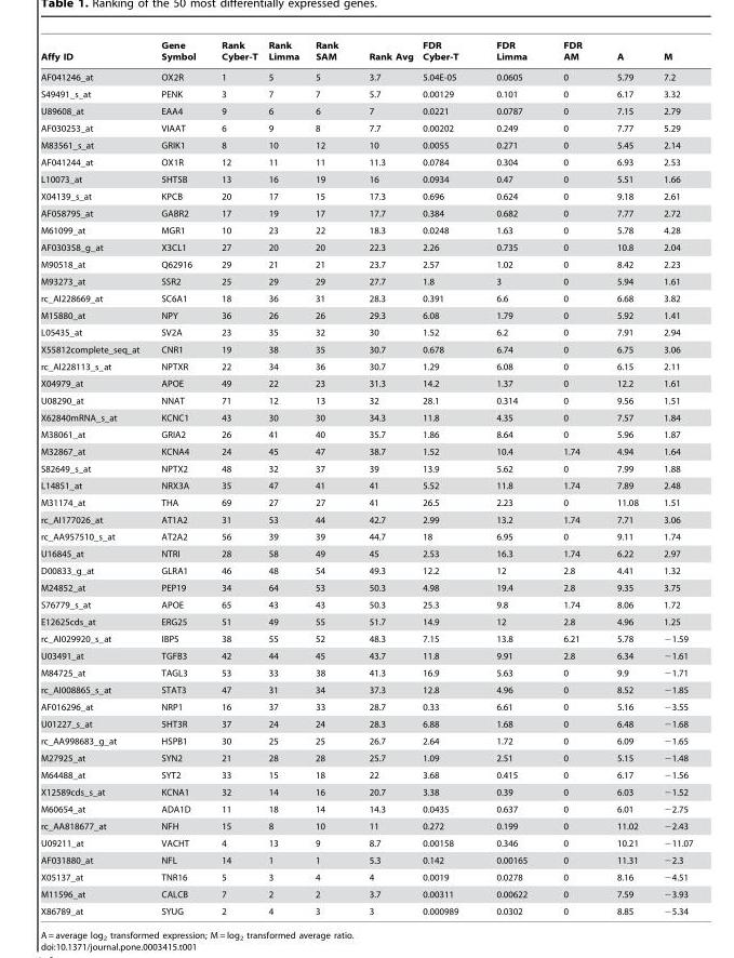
<table><thead><tr><td>Affy ID</td><td>Gene Symbol</td><td>Rank Cyber-T</td><td>Rank Limma</td><td>Rank SAM</td><td>Rank Avg</td><td>FDR Cyber-T</td><td>FDR Limma</td><td>FDR AM</td><td>A</td><td>M</td></tr></thead><tbody><tr><td>AF041246_at</td><td>OX2R</td><td>1</td><td>5</td><td>5</td><td>3.7</td><td>5.04E-05</td><td>0.0605</td><td>0</td><td>5.79</td><td>7.2</td></tr><tr><td>S49491_s_at</td><td>PENK</td><td>3</td><td>7</td><td>7</td><td>5.7</td><td>0.00129</td><td>0.101</td><td>0</td><td>6.17</td><td>3.32</td></tr><tr><td>U89608_at</td><td>EAA4</td><td>9</td><td>6</td><td>6</td><td>7</td><td>0.0221</td><td>0.0787</td><td>0</td><td>7.15</td><td>2.79</td></tr><tr><td>AF030253_at</td><td>VIAAT</td><td>6</td><td>9</td><td>8</td><td>7.7</td><td>0.00202</td><td>0.249</td><td>0</td><td>7.77</td><td>5.29</td></tr><tr><td>M83561_s_at</td><td>GRIK1</td><td>8</td><td>10</td><td>12</td><td>10</td><td>0.0055</td><td>0.271</td><td>0</td><td>5.45</td><td>2.14</td></tr><tr><td>AF041244_at</td><td>OX1R</td><td>12</td><td>11</td><td>11</td><td>11.3</td><td>0.0784</td><td>0.304</td><td>0</td><td>6.93</td><td>2.53</td></tr><tr><td>L10073_at</td><td>5HT5B</td><td>13</td><td>16</td><td>19</td><td>16</td><td>0.0934</td><td>0.47</td><td>0</td><td>5.51</td><td>1.66</td></tr><tr><td>X04139_s_at</td><td>KPCB</td><td>20</td><td>17</td><td>15</td><td>17.3</td><td>0.696</td><td>0.624</td><td>0</td><td>9.18</td><td>2.61</td></tr><tr><td>AF058795_at</td><td>GABR2</td><td>17</td><td>19</td><td>17</td><td>17.7</td><td>0.384</td><td>0.682</td><td>0</td><td>7.77</td><td>2.72</td></tr><tr><td>M61099_at</td><td>MGR1</td><td>10</td><td>23</td><td>22</td><td>18.3</td><td>0.0248</td><td>1.63</td><td>0</td><td>5.78</td><td>4.28</td></tr><tr><td>AF030358_g_at</td><td>X3CL1</td><td>27</td><td>20</td><td>20</td><td>22.3</td><td>2.26</td><td>0.735</td><td>0</td><td>10.8</td><td>2.04</td></tr><tr><td>M90518_at</td><td>Q62916</td><td>29</td><td>21</td><td>21</td><td>23.7</td><td>2.57</td><td>1.02</td><td>0</td><td>8.42</td><td>2.23</td></tr><tr><td>M93273_at</td><td>SSR2</td><td>25</td><td>29</td><td>29</td><td>27.7</td><td>1.8</td><td>3</td><td>0</td><td>5.94</td><td>1.61</td></tr><tr><td>rc_AI228669_at</td><td>SC6A1</td><td>18</td><td>36</td><td>31</td><td>28.3</td><td>0.391</td><td>6.6</td><td>0</td><td>6.68</td><td>3.82</td></tr><tr><td>M15880_at</td><td>NPY</td><td>36</td><td>26</td><td>26</td><td>29.3</td><td>6.08</td><td>1.79</td><td>0</td><td>5.92</td><td>1.41</td></tr><tr><td>L05435_at</td><td>SV2A</td><td>23</td><td>35</td><td>32</td><td>30</td><td>1.52</td><td>6.2</td><td>0</td><td>7.91</td><td>2.94</td></tr><tr><td>X55812complete_seq_at</td><td>CNR1</td><td>19</td><td>38</td><td>35</td><td>30.7</td><td>0.678</td><td>6.74</td><td>0</td><td>6.75</td><td>3.06</td></tr><tr><td>rc_AI228113_s_at</td><td>NPTXR</td><td>22</td><td>34</td><td>36</td><td>30.7</td><td>1.29</td><td>6.08</td><td>0</td><td>6.15</td><td>2.11</td></tr><tr><td>X04979_at</td><td>APOE</td><td>49</td><td>22</td><td>23</td><td>31.3</td><td>14.2</td><td>1.37</td><td>0</td><td>12.2</td><td>1.61</td></tr><tr><td>U08290_at</td><td>NNAT</td><td>71</td><td>12</td><td>13</td><td>32</td><td>28.1</td><td>0.314</td><td>0</td><td>9.56</td><td>1.51</td></tr><tr><td>X62840mRNA_s_at</td><td>KCNC1</td><td>43</td><td>30</td><td>30</td><td>34.3</td><td>11.8</td><td>4.35</td><td>0</td><td>7.57</td><td>1.84</td></tr><tr><td>M38061_at</td><td>GRIA2</td><td>26</td><td>41</td><td>40</td><td>35.7</td><td>1.86</td><td>8.64</td><td>0</td><td>5.96</td><td>1.87</td></tr><tr><td>M32867_at</td><td>KCNA4</td><td>24</td><td>45</td><td>47</td><td>38.7</td><td>1.52</td><td>10.4</td><td>1.74</td><td>4.94</td><td>1.64</td></tr><tr><td>S82649_s_at</td><td>NPTX2</td><td>48</td><td>32</td><td>37</td><td>39</td><td>13.9</td><td>5.62</td><td>0</td><td>7.99</td><td>1.88</td></tr><tr><td>L14851_at</td><td>NRX3A</td><td>35</td><td>47</td><td>41</td><td>41</td><td>5.52</td><td>11.8</td><td>1.74</td><td>7.89</td><td>2.48</td></tr><tr><td>M31174_at</td><td>THA</td><td>69</td><td>27</td><td>27</td><td>41</td><td>26.5</td><td>2.23</td><td>0</td><td>11.08</td><td>1.51</td></tr><tr><td>rc_AI177026_at</td><td>AT1A2</td><td>31</td><td>53</td><td>44</td><td>42.7</td><td>2.99</td><td>13.2</td><td>1.74</td><td>7.71</td><td>3.06</td></tr><tr><td>rc_AA957510_s_at</td><td>AT2A2</td><td>56</td><td>39</td><td>39</td><td>44.7</td><td>18</td><td>6.95</td><td>0</td><td>9.11</td><td>1.74</td></tr><tr><td>U16845_at</td><td>NTRI</td><td>28</td><td>58</td><td>49</td><td>45</td><td>2.53</td><td>16.3</td><td>1.74</td><td>6.22</td><td>2.97</td></tr><tr><td>D00833_g_at</td><td>GLRA1</td><td>46</td><td>48</td><td>54</td><td>49.3</td><td>12.2</td><td>12</td><td>2.8</td><td>4.41</td><td>1.32</td></tr><tr><td>M24852_at</td><td>PEP19</td><td>34</td><td>64</td><td>53</td><td>50.3</td><td>4.98</td><td>19.4</td><td>2.8</td><td>9.35</td><td>3.75</td></tr><tr><td>S76779_s_at</td><td>APOE</td><td>65</td><td>43</td><td>43</td><td>50.3</td><td>25.3</td><td>9.8</td><td>1.74</td><td>8.06</td><td>1.72</td></tr><tr><td>E12625cds_at</td><td>ERG25</td><td>51</td><td>49</td><td>55</td><td>51.7</td><td>14.9</td><td>12</td><td>2.8</td><td>4.96</td><td>1.25</td></tr><tr><td>rc_AI029920_s_at</td><td>IBP5</td><td>38</td><td>55</td><td>52</td><td>48.3</td><td>7.15</td><td>13.8</td><td>6.21</td><td>5.78</td><td>−1.59</td></tr><tr><td>U03491_at</td><td>TGFB3</td><td>42</td><td>44</td><td>45</td><td>43.7</td><td>11.8</td><td>9.91</td><td>2.8</td><td>6.34</td><td>−1.61</td></tr><tr><td>M84725_at</td><td>TAGL3</td><td>53</td><td>33</td><td>38</td><td>41.3</td><td>16.9</td><td>5.63</td><td>0</td><td>9.9</td><td>−1.71</td></tr><tr><td>rc_AI008865_s_at</td><td>STAT3</td><td>47</td><td>31</td><td>34</td><td>37.3</td><td>12.8</td><td>4.96</td><td>0</td><td>8.52</td><td>−1.85</td></tr><tr><td>AF016296_at</td><td>NRP1</td><td>16</td><td>37</td><td>33</td><td>28.7</td><td>0.33</td><td>6.61</td><td>0</td><td>5.16</td><td>−3.55</td></tr><tr><td>U01227_s_at</td><td>5HT3R</td><td>37</td><td>24</td><td>24</td><td>28.3</td><td>6.88</td><td>1.68</td><td>0</td><td>6.48</td><td>−1.68</td></tr><tr><td>rc_AA998683_g_at</td><td>HSPB1</td><td>30</td><td>25</td><td>25</td><td>26.7</td><td>2.64</td><td>1.72</td><td>0</td><td>6.09</td><td>−1.65</td></tr><tr><td>M27925_at</td><td>SYN2</td><td>21</td><td>28</td><td>28</td><td>25.7</td><td>1.09</td><td>2.51</td><td>0</td><td>5.15</td><td>−1.48</td></tr><tr><td>M64488_at</td><td>SYT2</td><td>33</td><td>15</td><td>18</td><td>22</td><td>3.68</td><td>0.415</td><td>0</td><td>6.17</td><td>−1.56</td></tr><tr><td>X12589cds_s_at</td><td>KCNA1</td><td>32</td><td>14</td><td>16</td><td>20.7</td><td>3.38</td><td>0.39</td><td>0</td><td>6.03</td><td>−1.52</td></tr><tr><td>M60654_at</td><td>ADA1D</td><td>11</td><td>18</td><td>14</td><td>14.3</td><td>0.0435</td><td>0.637</td><td>0</td><td>6.01</td><td>−2.75</td></tr><tr><td>rc_AA818677_at</td><td>NFH</td><td>15</td><td>8</td><td>10</td><td>11</td><td>0.272</td><td>0.199</td><td>0</td><td>11.02</td><td>−2.43</td></tr><tr><td>U09211_at</td><td>VACHT</td><td>4</td><td>13</td><td>9</td><td>8.7</td><td>0.00158</td><td>0.346</td><td>0</td><td>10.21</td><td>−11.07</td></tr><tr><td>AF031880_at</td><td>NFL</td><td>14</td><td>1</td><td>1</td><td>5.3</td><td>0.142</td><td>0.00165</td><td>0</td><td>11.31</td><td>−2.3</td></tr><tr><td>X05137_at</td><td>TNR16</td><td>5</td><td>3</td><td>4</td><td>4</td><td>0.0019</td><td>0.0278</td><td>0</td><td>8.16</td><td>−4.51</td></tr><tr><td>M11596_at</td><td>CALCB</td><td>7</td><td>2</td><td>2</td><td>3.7</td><td>0.00311</td><td>0.00622</td><td>0</td><td>7.59</td><td>−3.93</td></tr><tr><td>X86789_at</td><td>SYUG</td><td>2</td><td>4</td><td>3</td><td>3</td><td>0.000989</td><td>0.0302</td><td>0</td><td>8.85</td><td>−5.34</td></tr></tbody></table>